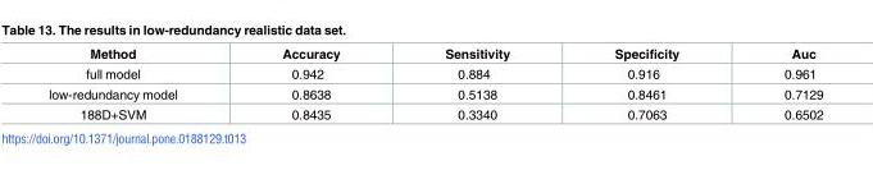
<table><thead><tr><td>Method</td><td>Accuracy</td><td>Sensitivity</td><td>Specificity</td><td>Auc</td></tr></thead><tbody><tr><td>full model</td><td>0.942</td><td>0.884</td><td>0.916</td><td>0.961</td></tr><tr><td>low-redundancy model</td><td>0.8638</td><td>0.5138</td><td>0.8461</td><td>0.7129</td></tr><tr><td>188D+SVM</td><td>0.8435</td><td>0.3340</td><td>0.7063</td><td>0.6502</td></tr></tbody></table>